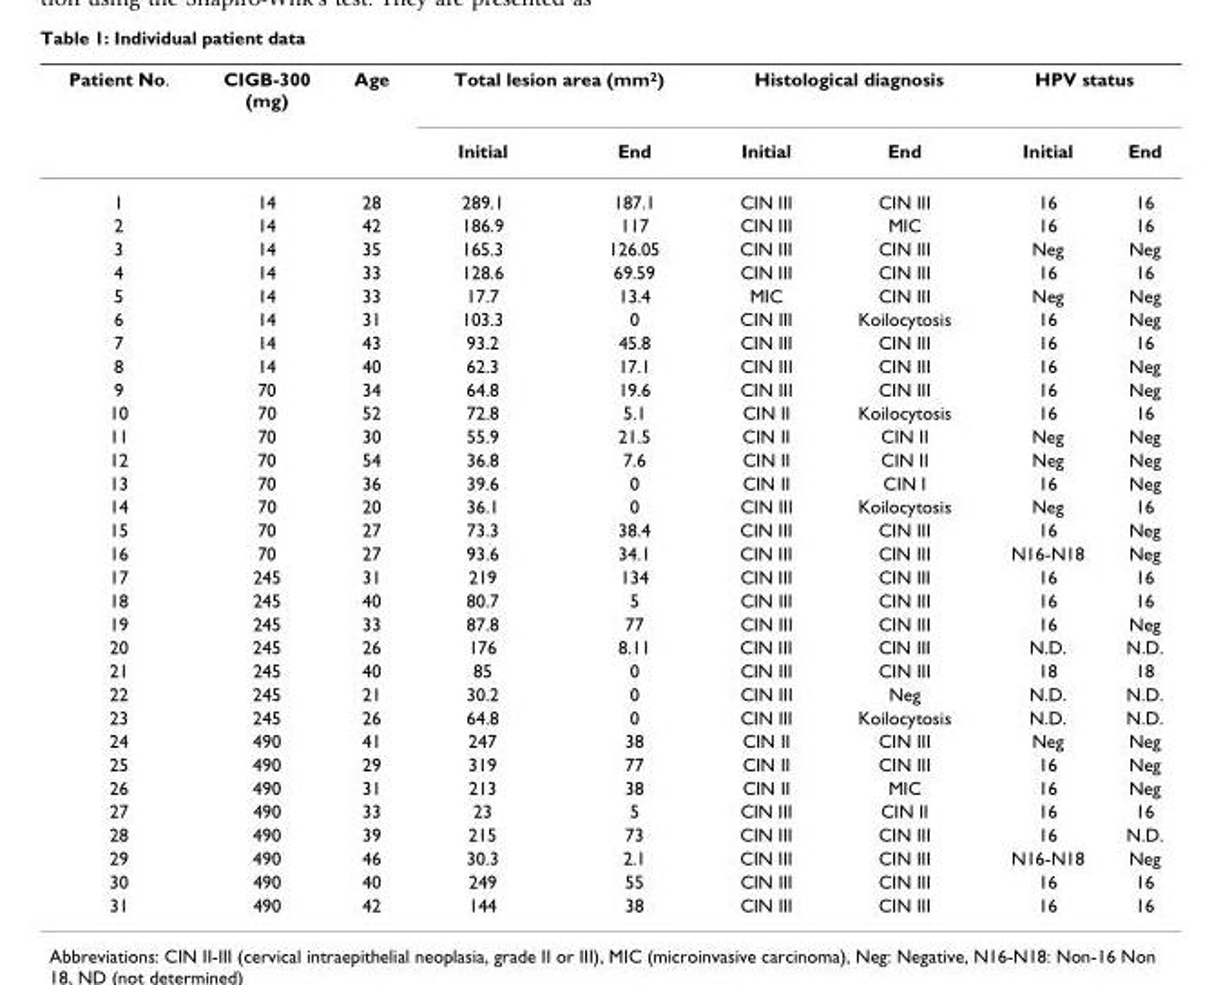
<table><thead><tr><td rowspan="2">Patient No.</td><td rowspan="2">CIGB-300 (mg)</td><td rowspan="2">Age</td><td colspan="2">Total lesion area (mm<sup>2</sup>)</td><td colspan="2">Histological diagnosis</td><td colspan="2">HPV status</td></tr><tr><td>Initial</td><td>End</td><td>Initial</td><td>End</td><td>Initial</td><td>End</td></tr></thead><tbody><tr><td>1</td><td>14</td><td>28</td><td>289.1</td><td>187.1</td><td>CIN III</td><td>CIN III</td><td>16</td><td>16</td></tr><tr><td>2</td><td>14</td><td>42</td><td>186.9</td><td>117</td><td>CIN III</td><td>MIC</td><td>16</td><td>16</td></tr><tr><td>3</td><td>14</td><td>35</td><td>165.3</td><td>126.05</td><td>CIN III</td><td>CIN III</td><td>Neg</td><td>Neg</td></tr><tr><td>4</td><td>14</td><td>33</td><td>128.6</td><td>69.59</td><td>CIN III</td><td>CIN III</td><td>16</td><td>16</td></tr><tr><td>5</td><td>14</td><td>33</td><td>17.7</td><td>13.4</td><td>MIC</td><td>CIN III</td><td>Neg</td><td>Neg</td></tr><tr><td>6</td><td>14</td><td>31</td><td>103.3</td><td>0</td><td>CIN III</td><td>Koilocytosis</td><td>16</td><td>Neg</td></tr><tr><td>7</td><td>14</td><td>43</td><td>93.2</td><td>45.8</td><td>CIN III</td><td>CIN III</td><td>16</td><td>16</td></tr><tr><td>8</td><td>14</td><td>40</td><td>62.3</td><td>17.1</td><td>CIN III</td><td>CIN III</td><td>16</td><td>Neg</td></tr><tr><td>9</td><td>70</td><td>34</td><td>64.8</td><td>19.6</td><td>CIN III</td><td>CIN III</td><td>16</td><td>Neg</td></tr><tr><td>10</td><td>70</td><td>52</td><td>72.8</td><td>5.1</td><td>CIN II</td><td>Koilocytosis</td><td>16</td><td>16</td></tr><tr><td>11</td><td>70</td><td>30</td><td>55.9</td><td>21.5</td><td>CIN II</td><td>CIN II</td><td>Neg</td><td>Neg</td></tr><tr><td>12</td><td>70</td><td>54</td><td>36.8</td><td>7.6</td><td>CIN II</td><td>CIN II</td><td>Neg</td><td>Neg</td></tr><tr><td>13</td><td>70</td><td>36</td><td>39.6</td><td>0</td><td>CIN II</td><td>CIN I</td><td>16</td><td>Neg</td></tr><tr><td>14</td><td>70</td><td>20</td><td>36.1</td><td>0</td><td>CIN III</td><td>Koilocytosis</td><td>Neg</td><td>16</td></tr><tr><td>15</td><td>70</td><td>27</td><td>73.3</td><td>38.4</td><td>CIN III</td><td>CIN III</td><td>16</td><td>Neg</td></tr><tr><td>16</td><td>70</td><td>27</td><td>93.6</td><td>34.1</td><td>CIN III</td><td>CIN III</td><td>N16-N18</td><td>Neg</td></tr><tr><td>17</td><td>245</td><td>31</td><td>219</td><td>134</td><td>CIN III</td><td>CIN III</td><td>16</td><td>16</td></tr><tr><td>18</td><td>245</td><td>40</td><td>80.7</td><td>5</td><td>CIN III</td><td>CIN III</td><td>16</td><td>16</td></tr><tr><td>19</td><td>245</td><td>33</td><td>87.8</td><td>77</td><td>CIN III</td><td>CIN III</td><td>16</td><td>Neg</td></tr><tr><td>20</td><td>245</td><td>26</td><td>176</td><td>8.11</td><td>CIN III</td><td>CIN III</td><td>N.D.</td><td>N.D.</td></tr><tr><td>21</td><td>245</td><td>40</td><td>85</td><td>0</td><td>CIN III</td><td>CIN III</td><td>18</td><td>18</td></tr><tr><td>22</td><td>245</td><td>21</td><td>30.2</td><td>0</td><td>CIN III</td><td>Neg</td><td>N.D.</td><td>N.D.</td></tr><tr><td>23</td><td>245</td><td>26</td><td>64.8</td><td>0</td><td>CIN III</td><td>Koilocytosis</td><td>N.D.</td><td>N.D.</td></tr><tr><td>24</td><td>490</td><td>41</td><td>247</td><td>38</td><td>CIN II</td><td>CIN III</td><td>Neg</td><td>Neg</td></tr><tr><td>25</td><td>490</td><td>29</td><td>319</td><td>77</td><td>CIN II</td><td>CIN III</td><td>16</td><td>Neg</td></tr><tr><td>26</td><td>490</td><td>31</td><td>213</td><td>38</td><td>CIN II</td><td>MIC</td><td>16</td><td>Neg</td></tr><tr><td>27</td><td>490</td><td>33</td><td>23</td><td>5</td><td>CIN III</td><td>CIN II</td><td>16</td><td>16</td></tr><tr><td>28</td><td>490</td><td>39</td><td>215</td><td>73</td><td>CIN III</td><td>CIN III</td><td>16</td><td>N.D.</td></tr><tr><td>29</td><td>490</td><td>46</td><td>30.3</td><td>2.1</td><td>CIN III</td><td>CIN III</td><td>N16-N18</td><td>Neg</td></tr><tr><td>30</td><td>490</td><td>40</td><td>249</td><td>55</td><td>CIN III</td><td>CIN III</td><td>16</td><td>16</td></tr><tr><td>31</td><td>490</td><td>42</td><td>144</td><td>38</td><td>CIN III</td><td>CIN III</td><td>16</td><td>16</td></tr></tbody></table>